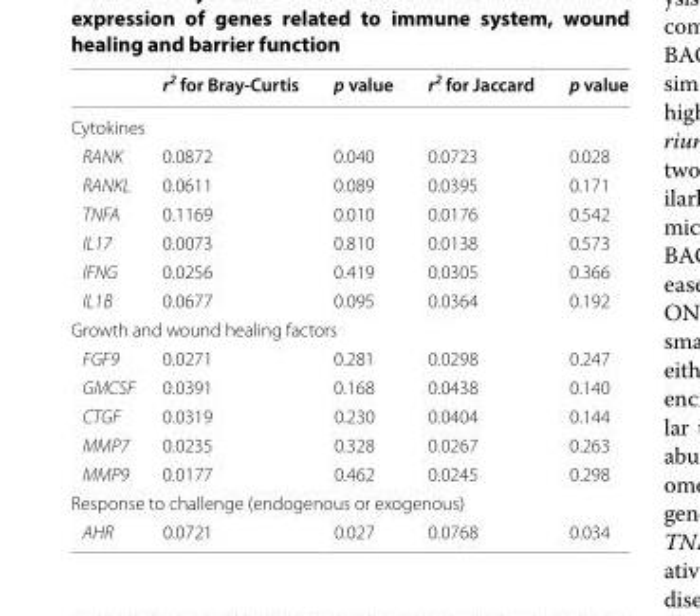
<table><thead><tr><td></td><td>r<sup>2</sup> for Bray‑Curtis</td><td>p value</td><td>r<sup>2</sup> for Jaccard</td><td>p value</td></tr></thead><tbody><tr><td colspan="5">Cytokines</td></tr><tr><td>RANK</td><td>0.0872</td><td>0.040</td><td>0.0723</td><td>0.028</td></tr><tr><td>RANKL</td><td>0.0611</td><td>0.089</td><td>0.0395</td><td>0.171</td></tr><tr><td>TNFA</td><td>0.1169</td><td>0.010</td><td>0.0176</td><td>0.542</td></tr><tr><td>IL17</td><td>0.0073</td><td>0.810</td><td>0.0138</td><td>0.573</td></tr><tr><td>IFNG</td><td>0.0256</td><td>0.419</td><td>0.0305</td><td>0.366</td></tr><tr><td>IL1B</td><td>0.0677</td><td>0.095</td><td>0.0364</td><td>0.192</td></tr><tr><td colspan="5">Growth and wound healing factors</td></tr><tr><td>FGF9</td><td>0.0271</td><td>0.281</td><td>0.0298</td><td>0.247</td></tr><tr><td>GMCSF</td><td>0.0391</td><td>0.168</td><td>0.0438</td><td>0.140</td></tr><tr><td>CTGF</td><td>0.0319</td><td>0.230</td><td>0.0404</td><td>0.144</td></tr><tr><td>MMP7</td><td>0.0235</td><td>0.328</td><td>0.0267</td><td>0.263</td></tr><tr><td>MMP9</td><td>0.0177</td><td>0.462</td><td>0.0245</td><td>0.298</td></tr><tr><td colspan="5">Response to challenge (endogenous or exogenous)</td></tr><tr><td>AHR</td><td>0.0721</td><td>0.027</td><td>0.0768</td><td>0.034</td></tr></tbody></table>